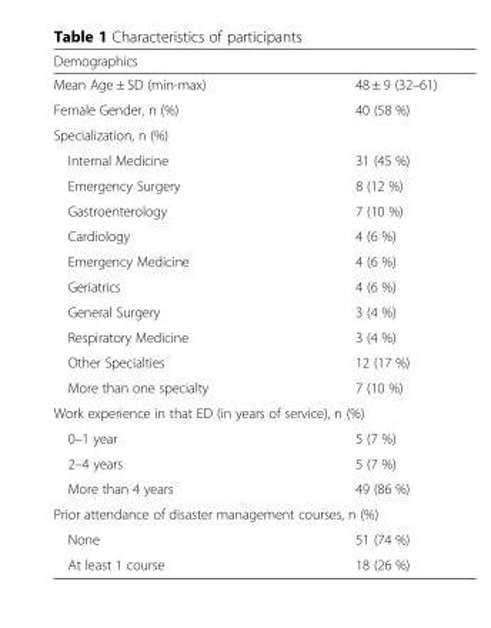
<table><thead><tr><td colspan="2">Demographics</td></tr><tr><td>Mean Age ± SD (min-max)</td><td>48 ± 9 (32–61)</td></tr></thead><tbody><tr><td>Female Gender, n (%)</td><td>40 (58 %)</td></tr><tr><td colspan="2">Specialization, n (%)</td></tr><tr><td>Internal Medicine</td><td>31 (45 %)</td></tr><tr><td>Emergency Surgery</td><td>8 (12 %)</td></tr><tr><td>Gastroenterology</td><td>7 (10 %)</td></tr><tr><td>Cardiology</td><td>4 (6 %)</td></tr><tr><td>Emergency Medicine</td><td>4 (6 %)</td></tr><tr><td>Geriatrics</td><td>4 (6 %)</td></tr><tr><td>General Surgery</td><td>3 (4 %)</td></tr><tr><td>Respiratory Medicine</td><td>3 (4 %)</td></tr><tr><td>Other Specialties</td><td>12 (17 %)</td></tr><tr><td>More than one specialty</td><td>7 (10 %)</td></tr><tr><td colspan="2">Work experience in that ED (in years of service), n (%)</td></tr><tr><td>0–1 year</td><td>5 (7 %)</td></tr><tr><td>2–4 years</td><td>5 (7 %)</td></tr><tr><td>More than 4 years</td><td>49 (86 %)</td></tr><tr><td colspan="2">Prior attendance of disaster management courses, n (%)</td></tr><tr><td>None</td><td>51 (74 %)</td></tr><tr><td>At least 1 course</td><td>18 (26 %)</td></tr></tbody></table>